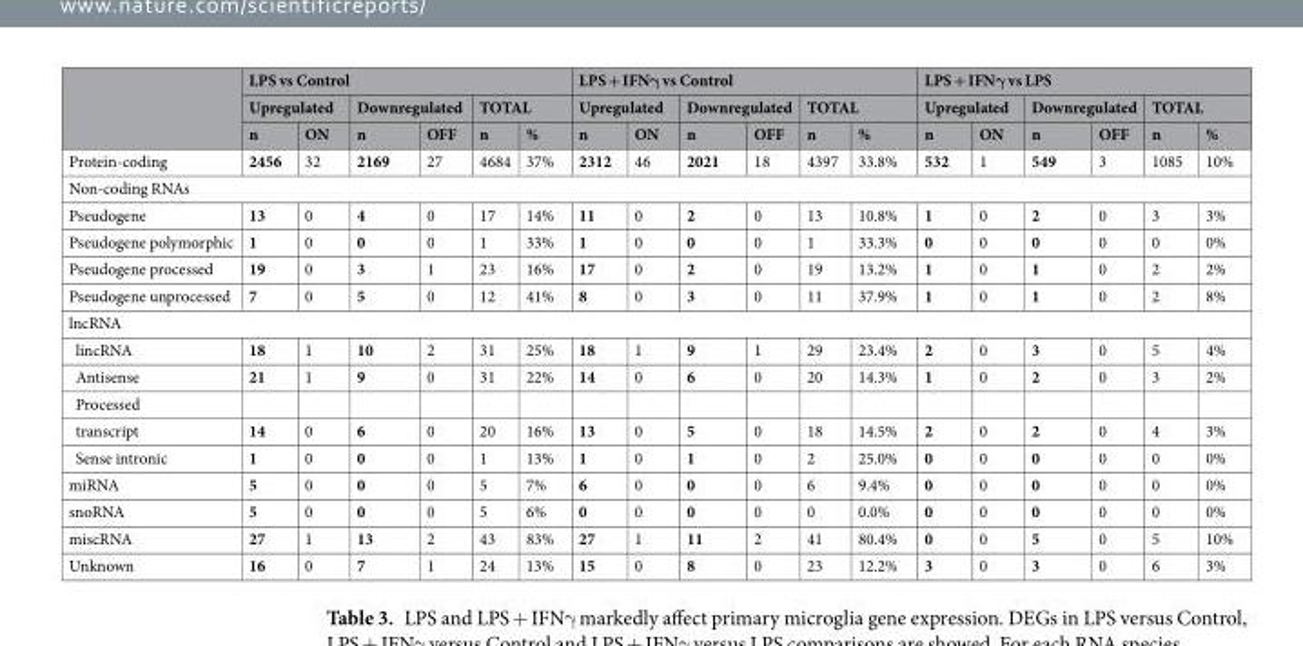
<table><thead><tr><td rowspan="3"></td><td colspan="6">LPS vs Control</td><td colspan="6">LPS + IFNγ vs Control</td><td colspan="6">LPS + IFNγ vs LPS</td></tr><tr><td colspan="2">Upregulated</td><td colspan="2">Downregulated</td><td colspan="2">TOTAL</td><td colspan="2">Upregulated</td><td colspan="2">Downregulated</td><td colspan="2">TOTAL</td><td colspan="2">Upregulated</td><td colspan="2">Downregulated</td><td colspan="2">TOTAL</td></tr><tr><td>n</td><td>ON</td><td>n</td><td>OFF</td><td>n</td><td>%</td><td>n</td><td>ON</td><td>n</td><td>OFF</td><td>n</td><td>%</td><td>n</td><td>ON</td><td>n</td><td>OFF</td><td>n</td><td>%</td></tr></thead><tbody><tr><td>Protein-coding</td><td>2456</td><td>32</td><td>2169</td><td>27</td><td>4684</td><td>37%</td><td>2312</td><td>46</td><td>2021</td><td>18</td><td>4397</td><td>33.8%</td><td>532</td><td>1</td><td>549</td><td>3</td><td>1085</td><td>10%</td></tr><tr><td colspan="19">Non-coding RNAs</td></tr><tr><td>Pseudogene</td><td>13</td><td>0</td><td>4</td><td>0</td><td>17</td><td>14%</td><td>11</td><td>0</td><td>2</td><td>0</td><td>13</td><td>10.8%</td><td>1</td><td>0</td><td>2</td><td>0</td><td>3</td><td>3%</td></tr><tr><td>Pseudogene polymorphic</td><td>1</td><td>0</td><td>0</td><td>0</td><td>1</td><td>33%</td><td>1</td><td>0</td><td>0</td><td>0</td><td>1</td><td>33.3%</td><td>0</td><td>0</td><td>0</td><td>0</td><td>0</td><td>0%</td></tr><tr><td>Pseudogene processed</td><td>19</td><td>0</td><td>3</td><td>1</td><td>23</td><td>16%</td><td>17</td><td>0</td><td>2</td><td>0</td><td>19</td><td>13.2%</td><td>1</td><td>0</td><td>1</td><td>0</td><td>2</td><td>2%</td></tr><tr><td>Pseudogene unprocessed</td><td>7</td><td>0</td><td>5</td><td>0</td><td>12</td><td>41%</td><td>8</td><td>0</td><td>3</td><td>0</td><td>11</td><td>37.9%</td><td>1</td><td>0</td><td>1</td><td>0</td><td>2</td><td>8%</td></tr><tr><td colspan="19">lncRNA</td></tr><tr><td>lincRNA</td><td>18</td><td>1</td><td>10</td><td>2</td><td>31</td><td>25%</td><td>18</td><td>1</td><td>9</td><td>1</td><td>29</td><td>23.4%</td><td>2</td><td>0</td><td>3</td><td>0</td><td>5</td><td>4%</td></tr><tr><td>Antisense</td><td>21</td><td>1</td><td>9</td><td>0</td><td>31</td><td>22%</td><td>14</td><td>0</td><td>6</td><td>0</td><td>20</td><td>14.3%</td><td>1</td><td>0</td><td>2</td><td>0</td><td>3</td><td>2%</td></tr><tr><td colspan="19">Processed</td></tr><tr><td>transcript</td><td>14</td><td>0</td><td>6</td><td>0</td><td>20</td><td>16%</td><td>13</td><td>0</td><td>5</td><td>0</td><td>18</td><td>14.5%</td><td>2</td><td>0</td><td>2</td><td>0</td><td>4</td><td>3%</td></tr><tr><td>Sense intronic</td><td>1</td><td>0</td><td>0</td><td>0</td><td>1</td><td>13%</td><td>1</td><td>0</td><td>1</td><td>0</td><td>2</td><td>25.0%</td><td>0</td><td>0</td><td>0</td><td>0</td><td>0</td><td>0%</td></tr><tr><td>miRNA</td><td>5</td><td>0</td><td>0</td><td>0</td><td>5</td><td>7%</td><td>6</td><td>0</td><td>0</td><td>0</td><td>6</td><td>9.4%</td><td>0</td><td>0</td><td>0</td><td>0</td><td>0</td><td>0%</td></tr><tr><td>snoRNA</td><td>5</td><td>0</td><td>0</td><td>0</td><td>5</td><td>6%</td><td>0</td><td>0</td><td>0</td><td>0</td><td>0</td><td>0.0%</td><td>0</td><td>0</td><td>0</td><td>0</td><td>0</td><td>0%</td></tr><tr><td>miscRNA</td><td>27</td><td>1</td><td>13</td><td>2</td><td>43</td><td>83%</td><td>27</td><td>1</td><td>11</td><td>2</td><td>41</td><td>80.4%</td><td>0</td><td>0</td><td>5</td><td>0</td><td>5</td><td>10%</td></tr><tr><td>Unknown</td><td>16</td><td>0</td><td>7</td><td>1</td><td>24</td><td>13%</td><td>15</td><td>0</td><td>8</td><td>0</td><td>23</td><td>12.2%</td><td>3</td><td>0</td><td>3</td><td>0</td><td>6</td><td>3%</td></tr></tbody></table>